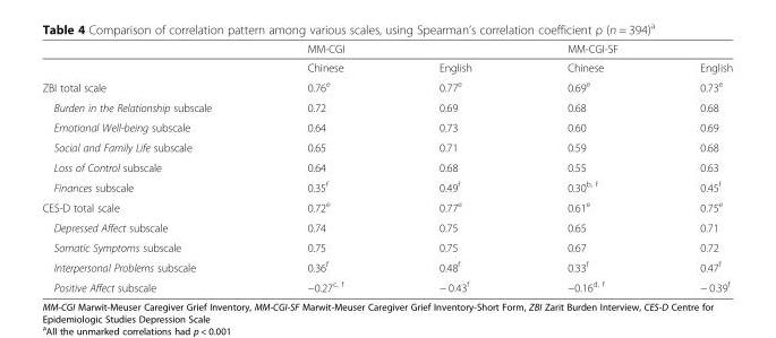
<table><thead><tr><td rowspan="2"></td><td colspan="2">MM-CGI</td><td colspan="2">MM-CGI-SF</td></tr><tr><td>Chinese</td><td>English</td><td>Chinese</td><td>English</td></tr></thead><tbody><tr><td>ZBI total scale</td><td>0.76<sup>e</sup></td><td>0.77<sup>e</sup></td><td>0.69<sup>e</sup></td><td>0.73<sup>e</sup></td></tr><tr><td>Burden in the Relationship subscale</td><td>0.72</td><td>0.69</td><td>0.68</td><td>0.68</td></tr><tr><td>Emotional Well-being subscale</td><td>0.64</td><td>0.73</td><td>0.60</td><td>0.69</td></tr><tr><td>Social and Family Life subscale</td><td>0.65</td><td>0.71</td><td>0.59</td><td>0.68</td></tr><tr><td>Loss of Control subscale</td><td>0.64</td><td>0.68</td><td>0.55</td><td>0.63</td></tr><tr><td>Finances subscale</td><td>0.35<sup>f</sup></td><td>0.49<sup>f</sup></td><td>0.30<sup>b, f</sup></td><td>0.45<sup>f</sup></td></tr><tr><td>CES-D total scale</td><td>0.72<sup>e</sup></td><td>0.77<sup>e</sup></td><td>0.61<sup>e</sup></td><td>0.75<sup>e</sup></td></tr><tr><td>Depressed Affect subscale</td><td>0.74</td><td>0.75</td><td>0.65</td><td>0.71</td></tr><tr><td>Somatic Symptoms subscale</td><td>0.75</td><td>0.75</td><td>0.67</td><td>0.72</td></tr><tr><td>Interpersonal Problems subscale</td><td>0.36<sup>f</sup></td><td>0.48<sup>f</sup></td><td>0.33<sup>f</sup></td><td>0.47<sup>f</sup></td></tr><tr><td>Positive Affect subscale</td><td>−0.27<sup>c, f</sup></td><td>− 0.43<sup>f</sup></td><td>−0.16<sup>d, f</sup></td><td>− 0.39<sup>f</sup></td></tr></tbody></table>